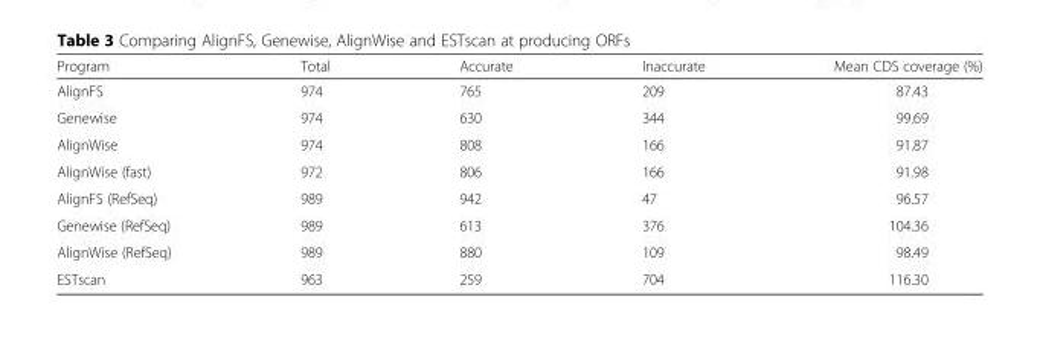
<table><thead><tr><td>Program</td><td>Total</td><td>Accurate</td><td>Inaccurate</td><td>Mean CDS coverage (%)</td></tr></thead><tbody><tr><td>AlignFS</td><td>974</td><td>765</td><td>209</td><td>87.43</td></tr><tr><td>Genewise</td><td>974</td><td>630</td><td>344</td><td>99.69</td></tr><tr><td>AlignWise</td><td>974</td><td>808</td><td>166</td><td>91.87</td></tr><tr><td>AlignWise (fast)</td><td>972</td><td>806</td><td>166</td><td>91.98</td></tr><tr><td>AlignFS (RefSeq)</td><td>989</td><td>942</td><td>47</td><td>96.57</td></tr><tr><td>Genewise (RefSeq)</td><td>989</td><td>613</td><td>376</td><td>104.36</td></tr><tr><td>AlignWise (RefSeq)</td><td>989</td><td>880</td><td>109</td><td>98.49</td></tr><tr><td>ESTscan</td><td>963</td><td>259</td><td>704</td><td>116.30</td></tr></tbody></table>